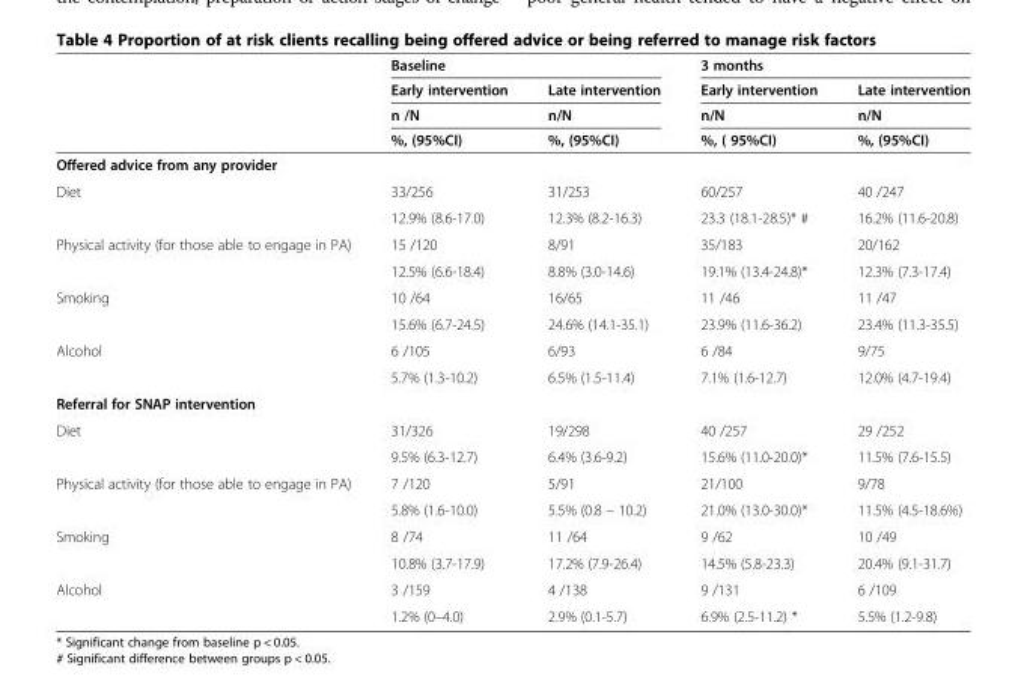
<table><thead><tr><td rowspan="4"></td><td colspan="2">Baseline</td><td colspan="2">3 months</td></tr><tr><td rowspan="3">Early intervention n /N %, (95%CI)</td><td rowspan="3">Late intervention n/N %, (95%CI)</td><td rowspan="3">Early intervention n/N %, ( 95%CI)</td><td rowspan="3">Late intervention n/N %, (95%CI)</td></tr><tr></tr><tr></tr></thead><tbody><tr><td colspan="5">Offered advice from any provider</td></tr><tr><td rowspan="2">Diet</td><td>33/256</td><td>31/253</td><td>60/257</td><td>40 /247</td></tr><tr><td>12.9% (8.6-17.0)</td><td>12.3% (8.2-16.3)</td><td>23.3 (18.1-28.5)* #</td><td>16.2% (11.6-20.8)</td></tr><tr><td rowspan="2">Physical activity (for those able to engage in PA)</td><td>15 /120</td><td>8/91</td><td>35/183</td><td>20/162</td></tr><tr><td>12.5% (6.6-18.4)</td><td>8.8% (3.0-14.6)</td><td>19.1% (13.4-24.8)*</td><td>12.3% (7.3-17.4)</td></tr><tr><td rowspan="2">Smoking</td><td>10 /64</td><td>16/65</td><td>11 /46</td><td>11 /47</td></tr><tr><td>15.6% (6.7-24.5)</td><td>24.6% (14.1-35.1)</td><td>23.9% (11.6-36.2)</td><td>23.4% (11.3-35.5)</td></tr><tr><td rowspan="2">Alcohol</td><td>6 /105</td><td>6/93</td><td>6 /84</td><td>9/75</td></tr><tr><td>5.7% (1.3-10.2)</td><td>6.5% (1.5-11.4)</td><td>7.1% (1.6-12.7)</td><td>12.0% (4.7-19.4)</td></tr><tr><td colspan="5">Referral for SNAP intervention</td></tr><tr><td rowspan="2">Diet</td><td>31/326</td><td>19/298</td><td>40 /257</td><td>29 /252</td></tr><tr><td>9.5% (6.3-12.7)</td><td>6.4% (3.6-9.2)</td><td>15.6% (11.0-20.0)*</td><td>11.5% (7.6-15.5)</td></tr><tr><td rowspan="2">Physical activity (for those able to engage in PA)</td><td>7 /120</td><td>5/91</td><td>21/100</td><td>9/78</td></tr><tr><td>5.8% (1.6-10.0)</td><td>5.5% (0.8 – 10.2)</td><td>21.0% (13.0-30.0)*</td><td>11.5% (4.5-18.6%)</td></tr><tr><td rowspan="2">Smoking</td><td>8 /74</td><td>11 /64</td><td>9 /62</td><td>10 /49</td></tr><tr><td>10.8% (3.7-17.9)</td><td>17.2% (7.9-26.4)</td><td>14.5% (5.8-23.3)</td><td>20.4% (9.1-31.7)</td></tr><tr><td rowspan="2">Alcohol</td><td>3 /159</td><td>4 /138</td><td>9 /131</td><td>6 /109</td></tr><tr><td>1.2% (0–4.0)</td><td>2.9% (0.1-5.7)</td><td>6.9% (2.5-11.2) *</td><td>5.5% (1.2-9.8)</td></tr></tbody></table>